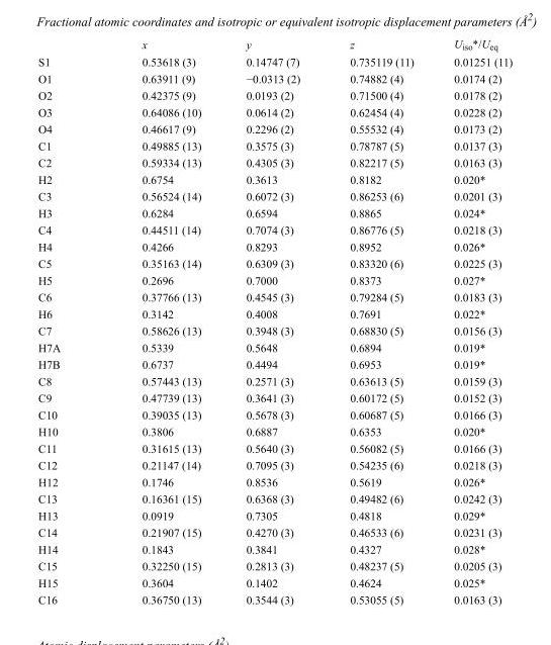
<table><thead><tr><td></td><td>x</td><td>y</td><td>z</td><td>U<sub>iso</sub>*/U<sub>eq</sub></td></tr></thead><tbody><tr><td>S1</td><td>0.53618 (3)</td><td>0.14747 (7)</td><td>0.735119 (11)</td><td>0.01251 (11)</td></tr><tr><td>O1</td><td>0.63911 (9)</td><td>−0.0313 (2)</td><td>0.74882 (4)</td><td>0.0174 (2)</td></tr><tr><td>O2</td><td>0.42375 (9)</td><td>0.0193 (2)</td><td>0.71500 (4)</td><td>0.0178 (2)</td></tr><tr><td>O3</td><td>0.64086 (10)</td><td>0.0614 (2)</td><td>0.62454 (4)</td><td>0.0228 (2)</td></tr><tr><td>O4</td><td>0.46617 (9)</td><td>0.2296 (2)</td><td>0.55532 (4)</td><td>0.0173 (2)</td></tr><tr><td>C1</td><td>0.49885 (13)</td><td>0.3575 (3)</td><td>0.78787 (5)</td><td>0.0137 (3)</td></tr><tr><td>C2</td><td>0.59334 (13)</td><td>0.4305 (3)</td><td>0.82217 (5)</td><td>0.0163 (3)</td></tr><tr><td>H2</td><td>0.6754</td><td>0.3613</td><td>0.8182</td><td>0.020*</td></tr><tr><td>C3</td><td>0.56524 (14)</td><td>0.6072 (3)</td><td>0.86253 (6)</td><td>0.0201 (3)</td></tr><tr><td>H3</td><td>0.6284</td><td>0.6594</td><td>0.8865</td><td>0.024*</td></tr><tr><td>C4</td><td>0.44511 (14)</td><td>0.7074 (3)</td><td>0.86776 (5)</td><td>0.0218 (3)</td></tr><tr><td>H4</td><td>0.4266</td><td>0.8293</td><td>0.8952</td><td>0.026*</td></tr><tr><td>C5</td><td>0.35163 (14)</td><td>0.6309 (3)</td><td>0.83320 (6)</td><td>0.0225 (3)</td></tr><tr><td>H5</td><td>0.2696</td><td>0.7000</td><td>0.8373</td><td>0.027*</td></tr><tr><td>C6</td><td>0.37766 (13)</td><td>0.4545 (3)</td><td>0.79284 (5)</td><td>0.0183 (3)</td></tr><tr><td>H6</td><td>0.3142</td><td>0.4008</td><td>0.7691</td><td>0.022*</td></tr><tr><td>C7</td><td>0.58626 (13)</td><td>0.3948 (3)</td><td>0.68830 (5)</td><td>0.0156 (3)</td></tr><tr><td>H7A</td><td>0.5339</td><td>0.5648</td><td>0.6894</td><td>0.019*</td></tr><tr><td>H7B</td><td>0.6737</td><td>0.4494</td><td>0.6953</td><td>0.019*</td></tr><tr><td>C8</td><td>0.57443 (13)</td><td>0.2571 (3)</td><td>0.63613 (5)</td><td>0.0159 (3)</td></tr><tr><td>C9</td><td>0.47739 (13)</td><td>0.3641 (3)</td><td>0.60172 (5)</td><td>0.0152 (3)</td></tr><tr><td>C10</td><td>0.39035 (13)</td><td>0.5678 (3)</td><td>0.60687 (5)</td><td>0.0166 (3)</td></tr><tr><td>H10</td><td>0.3806</td><td>0.6887</td><td>0.6353</td><td>0.020*</td></tr><tr><td>C11</td><td>0.31615 (13)</td><td>0.5640 (3)</td><td>0.56082 (5)</td><td>0.0166 (3)</td></tr><tr><td>C12</td><td>0.21147 (14)</td><td>0.7095 (3)</td><td>0.54235 (6)</td><td>0.0218 (3)</td></tr><tr><td>H12</td><td>0.1746</td><td>0.8536</td><td>0.5619</td><td>0.026*</td></tr><tr><td>C13</td><td>0.16361 (15)</td><td>0.6368 (3)</td><td>0.49482 (6)</td><td>0.0242 (3)</td></tr><tr><td>H13</td><td>0.0919</td><td>0.7305</td><td>0.4818</td><td>0.029*</td></tr><tr><td>C14</td><td>0.21907 (15)</td><td>0.4270 (3)</td><td>0.46533 (6)</td><td>0.0231 (3)</td></tr><tr><td>H14</td><td>0.1843</td><td>0.3841</td><td>0.4327</td><td>0.028*</td></tr><tr><td>C15</td><td>0.32250 (15)</td><td>0.2813 (3)</td><td>0.48237 (5)</td><td>0.0205 (3)</td></tr><tr><td>H15</td><td>0.3604</td><td>0.1402</td><td>0.4624</td><td>0.025*</td></tr><tr><td>C16</td><td>0.36750 (13)</td><td>0.3544 (3)</td><td>0.53055 (5)</td><td>0.0163 (3)</td></tr></tbody></table>